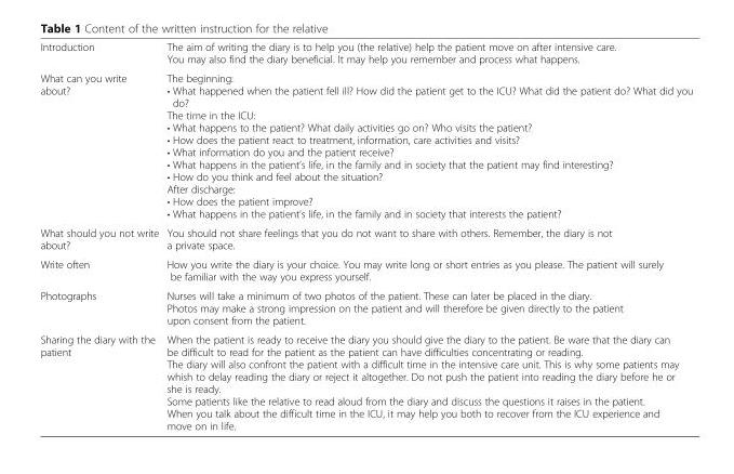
<table><tbody><tr><td>Introduction</td><td>The aim of writing the diary is to help you (the relative) help the patient move on after intensive care. You may also find the diary beneficial. It may help you remember and process what happens.</td></tr><tr><td>What can you write about?</td><td>The beginning: • What happened when the patient fell ill? How did the patient get to the ICU? What did the patient do? What did you do? The time in the ICU: • What happens to the patient? What daily activities go on? Who visits the patient? • How does the patient react to treatment, information, care activities and visits? • What information do you and the patient receive? • What happens in the patient’s life, in the family and in society that the patient may find interesting? • How do you think and feel about the situation? After discharge: • How does the patient improve? • What happens in the patient’s life, in the family and in society that interests the patient?</td></tr><tr><td>What should you not write about?</td><td>You should not share feelings that you do not want to share with others. Remember, the diary is not a private space.</td></tr><tr><td>Write often</td><td>How you write the diary is your choice. You may write long or short entries as you please. The patient will surely be familiar with the way you express yourself.</td></tr><tr><td>Photographs</td><td>Nurses will take a minimum of two photos of the patient. These can later be placed in the diary. Photos may make a strong impression on the patient and will therefore be given directly to the patient upon consent from the patient.</td></tr><tr><td>Sharing the diary with the patient</td><td>When the patient is ready to receive the diary you should give the diary to the patient. Be ware that the diary can be difficult to read for the patient as the patient can have difficulties concentrating or reading. The diary will also confront the patient with a difficult time in the intensive care unit. This is why some patients may whish to delay reading the diary or reject it altogether. Do not push the patient into reading the diary before he or she is ready. Some patients like the relative to read aloud from the diary and discuss the questions it raises in the patient. When you talk about the difficult time in the ICU, it may help you both to recover from the ICU experience and move on in life.</td></tr></tbody></table>